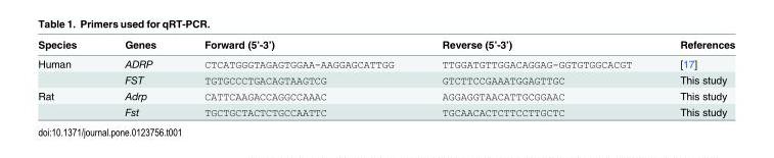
<table><thead><tr><td>Species</td><td>Genes</td><td>Forward (5’-3’)</td><td>Reverse (5’-3’)</td><td>References</td></tr></thead><tbody><tr><td rowspan="2">Human</td><td>ADRP</td><td>CTCATGGGTAGAGTGGAA-AAGGAGCATTGG</td><td>TTGGATGTTGGACAGGAG-GGTGTGGCACGT</td><td>[17]</td></tr><tr><td>FST</td><td>TGTGCCCTGACAGTAAGTCG</td><td>GTCTTCCGAAATGGAGTTGC</td><td>This study</td></tr><tr><td rowspan="2">Rat</td><td>Adrp</td><td>CATTCAAGACCAGGCCAAAC</td><td>AGGAGGTAACATTGCGGAAC</td><td>This study</td></tr><tr><td>Fst</td><td>TGCTGCTACTCTGCCAATTC</td><td>TGCAACACTCTTCCTTGCTC</td><td>This study</td></tr></tbody></table>